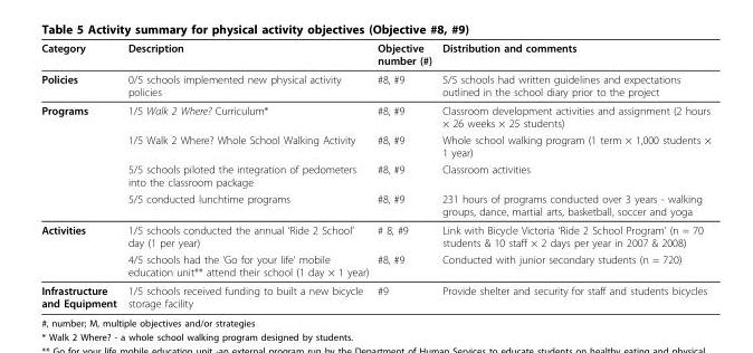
<table><thead><tr><td>Category</td><td>Description</td><td>Objective number (#)</td><td>Distribution and comments</td></tr></thead><tbody><tr><td>Policies</td><td>0/5 schools implemented new physical activity policies</td><td>#8, #9</td><td>5/5 schools had written guidelines and expectations outlined in the school diary prior to the project</td></tr><tr><td rowspan="4">Programs</td><td>1/5 Walk 2 Where? Curriculum*</td><td>#8, #9</td><td>Classroom development activities and assignment (2 hours × 26 weeks × 25 students)</td></tr><tr><td>1/5 Walk 2 Where? Whole School Walking Activity</td><td>#8, #9</td><td>Whole school walking program (1 term × 1,000 students × 1 year)</td></tr><tr><td>5/5 schools piloted the integration of pedometers into the classroom package</td><td>#8, #9</td><td>Classroom activities</td></tr><tr><td>5/5 conducted lunchtime programs</td><td>#8, #9</td><td>231 hours of programs conducted over 3 years - walking groups, dance, martial arts, basketball, soccer and yoga</td></tr><tr><td rowspan="2">Activities</td><td>1/5 schools conducted the annual ‘Ride 2 School’ day (1 per year)</td><td># 8, #9</td><td>Link with Bicycle Victoria ‘Ride 2 School Program’ (n = 70 students &amp; 10 staff × 2 days per year in 2007 &amp; 2008)</td></tr><tr><td>4/5 schools had the ‘Go for your life’ mobile education unit** attend their school (1 day × 1 year)</td><td>#8, #9</td><td>Conducted with junior secondary students (n = 720)</td></tr><tr><td>Infrastructure and Equipment</td><td>1/5 schools received funding to built a new bicycle storage facility</td><td>#9</td><td>Provide shelter and security for staff and students bicycles</td></tr></tbody></table>